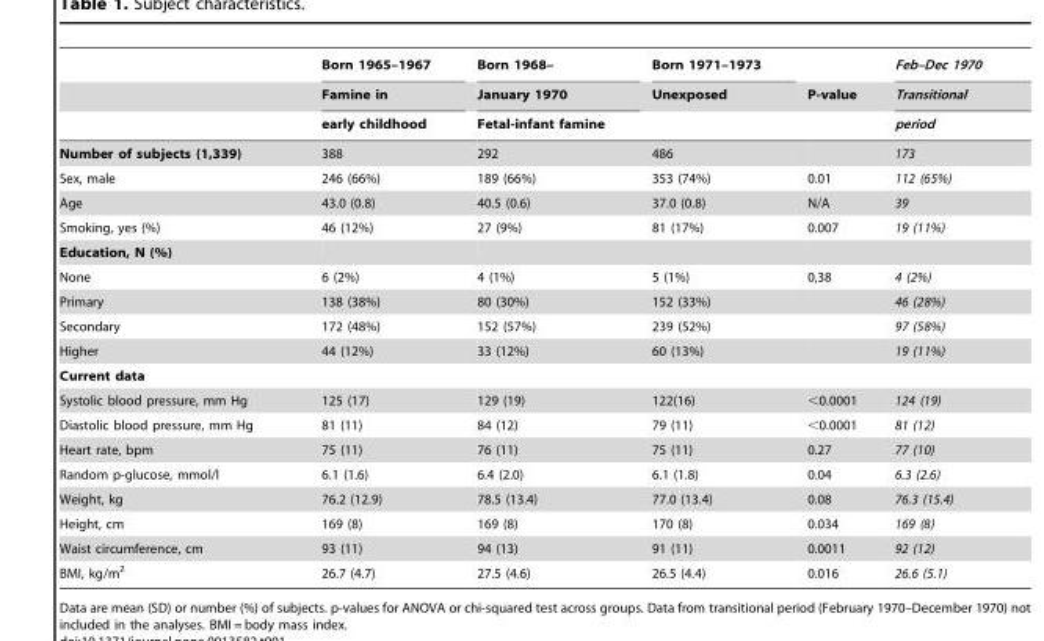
<table><thead><tr><td rowspan="3"></td><td rowspan="3">Born 1965–1967 Famine in early childhood</td><td rowspan="3">Born 1968– January 1970 Fetal-infant famine</td><td rowspan="3">Born 1971–1973 Unexposed</td><td rowspan="3">P-value</td><td rowspan="3">Feb–Dec 1970 Transitional period</td></tr><tr></tr><tr></tr></thead><tbody><tr><td>Number of subjects (1,339)</td><td>388</td><td>292</td><td>486</td><td></td><td>173</td></tr><tr><td>Sex, male</td><td>246 (66%)</td><td>189 (66%)</td><td>353 (74%)</td><td>0.01</td><td>112 (65%)</td></tr><tr><td>Age</td><td>43.0 (0.8)</td><td>40.5 (0.6)</td><td>37.0 (0.8)</td><td>N/A</td><td>39</td></tr><tr><td>Smoking, yes (%)</td><td>46 (12%)</td><td>27 (9%)</td><td>81 (17%)</td><td>0.007</td><td>19 (11%)</td></tr><tr><td colspan="6">Education, N (%)</td></tr><tr><td>None</td><td>6 (2%)</td><td>4 (1%)</td><td>5 (1%)</td><td>0,38</td><td>4 (2%)</td></tr><tr><td>Primary</td><td>138 (38%)</td><td>80 (30%)</td><td>152 (33%)</td><td></td><td>46 (28%)</td></tr><tr><td>Secondary</td><td>172 (48%)</td><td>152 (57%)</td><td>239 (52%)</td><td></td><td>97 (58%)</td></tr><tr><td>Higher</td><td>44 (12%)</td><td>33 (12%)</td><td>60 (13%)</td><td></td><td>19 (11%)</td></tr><tr><td colspan="6">Current data</td></tr><tr><td>Systolic blood pressure, mm Hg</td><td>125 (17)</td><td>129 (19)</td><td>122(16)</td><td>&lt;0.0001</td><td>124 (19)</td></tr><tr><td>Diastolic blood pressure, mm Hg</td><td>81 (11)</td><td>84 (12)</td><td>79 (11)</td><td>&lt;0.0001</td><td>81 (12)</td></tr><tr><td>Heart rate, bpm</td><td>75 (11)</td><td>76 (11)</td><td>75 (11)</td><td>0.27</td><td>77 (10)</td></tr><tr><td>Random p-glucose, mmol/l</td><td>6.1 (1.6)</td><td>6.4 (2.0)</td><td>6.1 (1.8)</td><td>0.04</td><td>6.3 (2.6)</td></tr><tr><td>Weight, kg</td><td>76.2 (12.9)</td><td>78.5 (13.4)</td><td>77.0 (13.4)</td><td>0.08</td><td>76.3 (15.4)</td></tr><tr><td>Height, cm</td><td>169 (8)</td><td>169 (8)</td><td>170 (8)</td><td>0.034</td><td>169 (8)</td></tr><tr><td>Waist circumference, cm</td><td>93 (11)</td><td>94 (13)</td><td>91 (11)</td><td>0.0011</td><td>92 (12)</td></tr><tr><td>BMI, kg/m<sup>2</sup></td><td>26.7 (4.7)</td><td>27.5 (4.6)</td><td>26.5 (4.4)</td><td>0.016</td><td>26.6 (5.1)</td></tr></tbody></table>